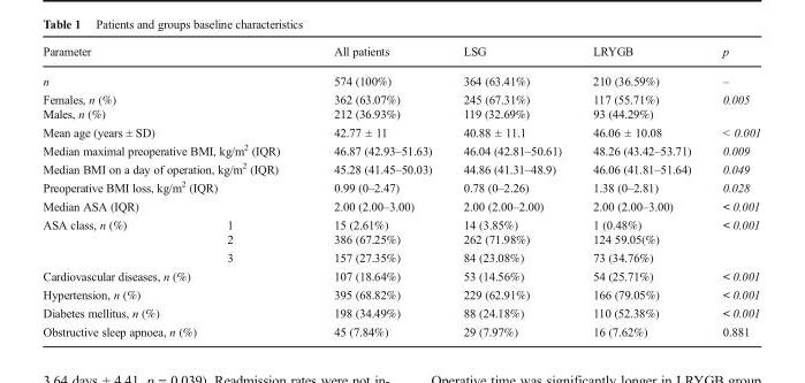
<table><thead><tr><td colspan="2">Parameter</td><td>All patients</td><td>LSG</td><td>LRYGB</td><td>p</td></tr></thead><tbody><tr><td colspan="2">n</td><td>574 (100%)</td><td>364 (63.41%)</td><td>210 (36.59%)</td><td>–</td></tr><tr><td colspan="2">Females, n (%)</td><td>362 (63.07%)</td><td>245 (67.31%)</td><td>117 (55.71%)</td><td rowspan="2">0.005</td></tr><tr><td colspan="2">Males, n (%)</td><td>212 (36.93%)</td><td>119 (32.69%)</td><td>93 (44.29%)</td></tr><tr><td colspan="2">Mean age (years ± SD)</td><td>42.77 ± 11</td><td>40.88 ± 11.1</td><td>46.06 ± 10.08</td><td>&lt; 0.001</td></tr><tr><td colspan="2">Median maximal preoperative BMI, kg/m<sup>2</sup> (IQR)</td><td>46.87 (42.93–51.63)</td><td>46.04 (42.81–50.61)</td><td>48.26 (43.42–53.71)</td><td>0.009</td></tr><tr><td colspan="2">Median BMI on a day of operation, kg/m<sup>2</sup> (IQR)</td><td>45.28 (41.45–50.03)</td><td>44.86 (41.31–48.9)</td><td>46.06 (41.81–51.64)</td><td>0.049</td></tr><tr><td colspan="2">Preoperative BMI loss, kg/m<sup>2</sup> (IQR)</td><td>0.99 (0–2.47)</td><td>0.78 (0–2.26)</td><td>1.38 (0–2.81)</td><td>0.028</td></tr><tr><td colspan="2">Median ASA (IQR)</td><td>2.00 (2.00–3.00)</td><td>2.00 (2.00–2.00)</td><td>2.00 (2.00–3.00)</td><td>&lt; 0.001</td></tr><tr><td rowspan="3">ASA class, n (%)</td><td>1</td><td>15 (2.61%)</td><td>14 (3.85%)</td><td>1 (0.48%)</td><td rowspan="3">&lt; 0.001</td></tr><tr><td>2</td><td>386 (67.25%)</td><td>262 (71.98%)</td><td>124 59.05(%)</td></tr><tr><td>3</td><td>157 (27.35%)</td><td>84 (23.08%)</td><td>73 (34.76%)</td></tr><tr><td colspan="2">Cardiovascular diseases, n (%)</td><td>107 (18.64%)</td><td>53 (14.56%)</td><td>54 (25.71%)</td><td>&lt; 0.001</td></tr><tr><td colspan="2">Hypertension, n (%)</td><td>395 (68.82%)</td><td>229 (62.91%)</td><td>166 (79.05%)</td><td>&lt; 0.001</td></tr><tr><td colspan="2">Diabetes mellitus, n (%)</td><td>198 (34.49%)</td><td>88 (24.18%)</td><td>110 (52.38%)</td><td>&lt; 0.001</td></tr><tr><td colspan="2">Obstructive sleep apnoea, n (%)</td><td>45 (7.84%)</td><td>29 (7.97%)</td><td>16 (7.62%)</td><td>0.881</td></tr></tbody></table>